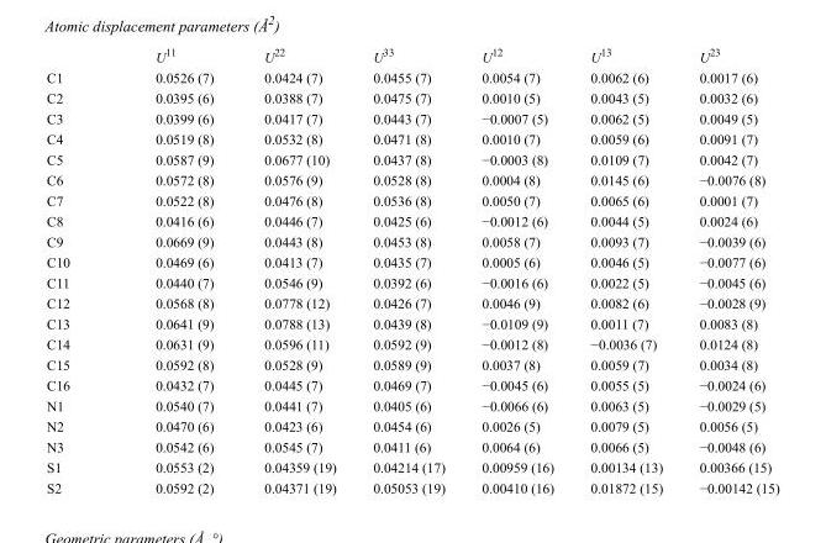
<table><thead><tr><td></td><td>U<sup>11</sup></td><td>U<sup>22</sup></td><td>U<sup>33</sup></td><td>U<sup>12</sup></td><td>U<sup>13</sup></td><td>U<sup>23</sup></td></tr></thead><tbody><tr><td>C1</td><td>0.0526 (7)</td><td>0.0424 (7)</td><td>0.0455 (7)</td><td>0.0054 (7)</td><td>0.0062 (6)</td><td>0.0017 (6)</td></tr><tr><td>C2</td><td>0.0395 (6)</td><td>0.0388 (7)</td><td>0.0475 (7)</td><td>0.0010 (5)</td><td>0.0043 (5)</td><td>0.0032 (6)</td></tr><tr><td>C3</td><td>0.0399 (6)</td><td>0.0417 (7)</td><td>0.0443 (7)</td><td>−0.0007 (5)</td><td>0.0062 (5)</td><td>0.0049 (5)</td></tr><tr><td>C4</td><td>0.0519 (8)</td><td>0.0532 (8)</td><td>0.0471 (8)</td><td>0.0010 (7)</td><td>0.0059 (6)</td><td>0.0091 (7)</td></tr><tr><td>C5</td><td>0.0587 (9)</td><td>0.0677 (10)</td><td>0.0437 (8)</td><td>−0.0003 (8)</td><td>0.0109 (7)</td><td>0.0042 (7)</td></tr><tr><td>C6</td><td>0.0572 (8)</td><td>0.0576 (9)</td><td>0.0528 (8)</td><td>0.0004 (8)</td><td>0.0145 (6)</td><td>−0.0076 (8)</td></tr><tr><td>C7</td><td>0.0522 (8)</td><td>0.0476 (8)</td><td>0.0536 (8)</td><td>0.0050 (7)</td><td>0.0065 (6)</td><td>0.0001 (7)</td></tr><tr><td>C8</td><td>0.0416 (6)</td><td>0.0446 (7)</td><td>0.0425 (6)</td><td>−0.0012 (6)</td><td>0.0044 (5)</td><td>0.0024 (6)</td></tr><tr><td>C9</td><td>0.0669 (9)</td><td>0.0443 (8)</td><td>0.0453 (8)</td><td>0.0058 (7)</td><td>0.0093 (7)</td><td>−0.0039 (6)</td></tr><tr><td>C10</td><td>0.0469 (6)</td><td>0.0413 (7)</td><td>0.0435 (7)</td><td>0.0005 (6)</td><td>0.0046 (5)</td><td>−0.0077 (6)</td></tr><tr><td>C11</td><td>0.0440 (7)</td><td>0.0546 (9)</td><td>0.0392 (6)</td><td>−0.0016 (6)</td><td>0.0022 (5)</td><td>−0.0045 (6)</td></tr><tr><td>C12</td><td>0.0568 (8)</td><td>0.0778 (12)</td><td>0.0426 (7)</td><td>0.0046 (9)</td><td>0.0082 (6)</td><td>−0.0028 (9)</td></tr><tr><td>C13</td><td>0.0641 (9)</td><td>0.0788 (13)</td><td>0.0439 (8)</td><td>−0.0109 (9)</td><td>0.0011 (7)</td><td>0.0083 (8)</td></tr><tr><td>C14</td><td>0.0631 (9)</td><td>0.0596 (11)</td><td>0.0592 (9)</td><td>−0.0012 (8)</td><td>−0.0036 (7)</td><td>0.0124 (8)</td></tr><tr><td>C15</td><td>0.0592 (8)</td><td>0.0528 (9)</td><td>0.0589 (9)</td><td>0.0037 (8)</td><td>0.0059 (7)</td><td>0.0034 (8)</td></tr><tr><td>C16</td><td>0.0432 (7)</td><td>0.0445 (7)</td><td>0.0469 (7)</td><td>−0.0045 (6)</td><td>0.0055 (5)</td><td>−0.0024 (6)</td></tr><tr><td>N1</td><td>0.0540 (7)</td><td>0.0441 (7)</td><td>0.0405 (6)</td><td>−0.0066 (6)</td><td>0.0063 (5)</td><td>−0.0029 (5)</td></tr><tr><td>N2</td><td>0.0470 (6)</td><td>0.0423 (6)</td><td>0.0454 (6)</td><td>0.0026 (5)</td><td>0.0079 (5)</td><td>0.0056 (5)</td></tr><tr><td>N3</td><td>0.0542 (6)</td><td>0.0545 (7)</td><td>0.0411 (6)</td><td>0.0064 (6)</td><td>0.0066 (5)</td><td>−0.0048 (6)</td></tr><tr><td>S1</td><td>0.0553 (2)</td><td>0.04359 (19)</td><td>0.04214 (17)</td><td>0.00959 (16)</td><td>0.00134 (13)</td><td>0.00366 (15)</td></tr><tr><td>S2</td><td>0.0592 (2)</td><td>0.04371 (19)</td><td>0.05053 (19)</td><td>0.00410 (16)</td><td>0.01872 (15)</td><td>−0.00142 (15)</td></tr></tbody></table>